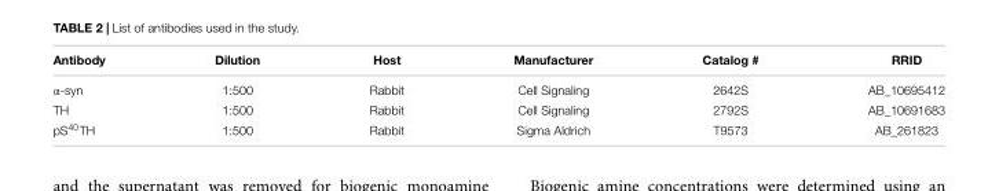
<table><thead><tr><td>Antibody</td><td>Dilution</td><td>Host</td><td>Manufacturer</td><td>Catalog #</td><td>RRID</td></tr></thead><tbody><tr><td>α-syn</td><td>1:500</td><td>Rabbit</td><td>Cell Signaling</td><td>2642S</td><td>AB_10695412</td></tr><tr><td>TH</td><td>1:500</td><td>Rabbit</td><td>Cell Signaling</td><td>2792S</td><td>AB_10691683</td></tr><tr><td>pS<sup>40</sup>TH</td><td>1:500</td><td>Rabbit</td><td>Sigma Aldrich</td><td>T9573</td><td>AB_261823</td></tr></tbody></table>